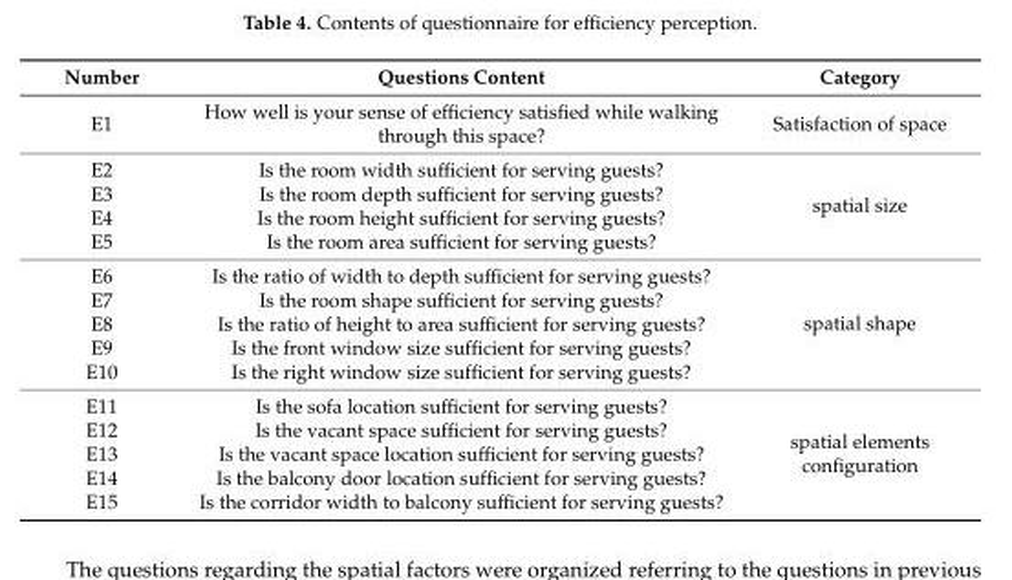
<table><thead><tr><td>Number</td><td>Questions Content</td><td>Category</td></tr></thead><tbody><tr><td>E1</td><td>How well is your sense of efficiency satisfied while walking through this space?</td><td>Satisfaction of space</td></tr><tr><td>E2</td><td>Is the room width sufficient for serving guests?</td><td rowspan="4">spatial size</td></tr><tr><td>E3</td><td>Is the room depth sufficient for serving guests?</td></tr><tr><td>E4</td><td>Is the room height sufficient for serving guests?</td></tr><tr><td>E5</td><td>Is the room area sufficient for serving guests?</td></tr><tr><td>E6</td><td>Is the ratio of width to depth sufficient for serving guests?</td><td rowspan="5">spatial shape</td></tr><tr><td>E7</td><td>Is the room shape sufficient for serving guests?</td></tr><tr><td>E8</td><td>Is the ratio of height to area sufficient for serving guests?</td></tr><tr><td>E9</td><td>Is the front window size sufficient for serving guests?</td></tr><tr><td>E10</td><td>Is the right window size sufficient for serving guests?</td></tr><tr><td>E11</td><td>Is the sofa location sufficient for serving guests?</td><td rowspan="5">spatial elements configuration</td></tr><tr><td>E12</td><td>Is the vacant space sufficient for serving guests?</td></tr><tr><td>E13</td><td>Is the vacant space location sufficient for serving guests?</td></tr><tr><td>E14</td><td>Is the balcony door location sufficient for serving guests?</td></tr><tr><td>E15</td><td>Is the corridor width to balcony sufficient for serving guests?</td></tr></tbody></table>